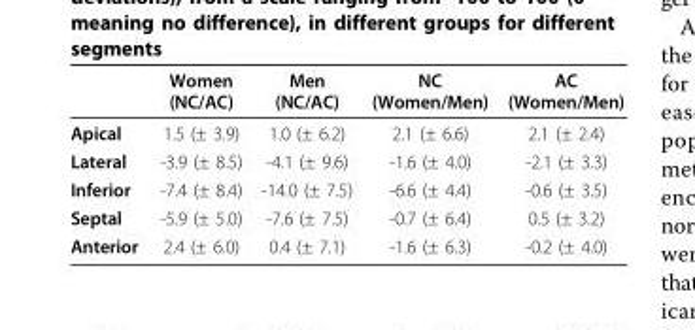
<table><thead><tr><td></td><td>Women (NC/AC)</td><td>Men (NC/AC)</td><td>NC (Women/Men)</td><td>AC (Women/Men)</td></tr></thead><tbody><tr><td>Apical</td><td>1.5 (± 3.9)</td><td>1.0 (± 6.2)</td><td>2.1 (± 6.6)</td><td>2.1 (± 2.4)</td></tr><tr><td>Lateral</td><td>-3.9 (± 8.5)</td><td>-4.1 (± 9.6)</td><td>-1.6 (± 4.0)</td><td>-2.1 (± 3.3)</td></tr><tr><td>Inferior</td><td>-7.4 (± 8.4)</td><td>-14.0 (± 7.5)</td><td>-6.6 (± 4.4)</td><td>-0.6 (± 3.5)</td></tr><tr><td>Septal</td><td>-5.9 (± 5.0)</td><td>-7.6 (± 7.5)</td><td>-0.7 (± 6.4)</td><td>0.5 (± 3.2)</td></tr><tr><td>Anterior</td><td>2.4 (± 6.0)</td><td>0.4 (± 7.1)</td><td>-1.6 (± 6.3)</td><td>-0.2 (± 4.0)</td></tr></tbody></table>